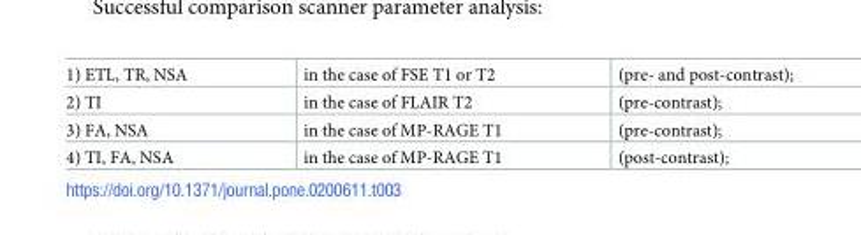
<table><tbody><tr><td>1) ETL, TR, NSA</td><td>in the case of FSE T1 or T2</td><td>(pre- and post-contrast);</td></tr><tr><td>2) TI</td><td>in the case of FLAIR T2</td><td>(pre-contrast);</td></tr><tr><td>3) FA, NSA</td><td>in the case of MP-RAGE T1</td><td>(pre-contrast);</td></tr><tr><td>4) TI, FA, NSA</td><td>in the case of MP-RAGE T1</td><td>(post-contrast);</td></tr></tbody></table>